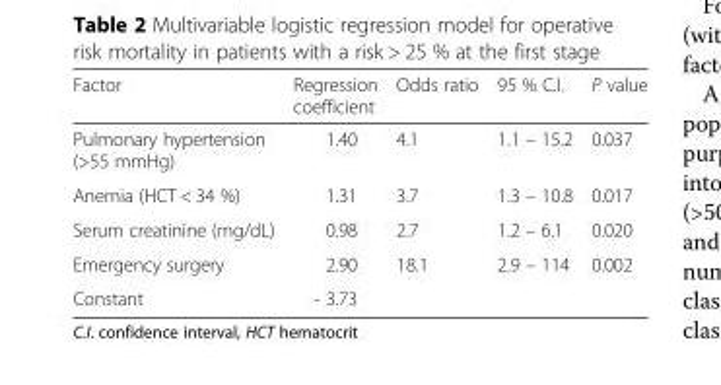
<table><thead><tr><td>Factor</td><td>Regression coefficient</td><td>Odds ratio</td><td>95 % C.I.</td><td>P value</td></tr></thead><tbody><tr><td>Pulmonary hypertension (&gt;55 mmHg)</td><td>1.40</td><td>4.1</td><td>1.1 – 15.2</td><td>0.037</td></tr><tr><td>Anemia (HCT &lt; 34 %)</td><td>1.31</td><td>3.7</td><td>1.3 – 10.8</td><td>0.017</td></tr><tr><td>Serum creatinine (mg/dL)</td><td>0.98</td><td>2.7</td><td>1.2 – 6.1</td><td>0.020</td></tr><tr><td>Emergency surgery</td><td>2.90</td><td>18.1</td><td>2.9 – 114</td><td>0.002</td></tr><tr><td>Constant</td><td>- 3.73</td><td></td><td></td><td></td></tr></tbody></table>